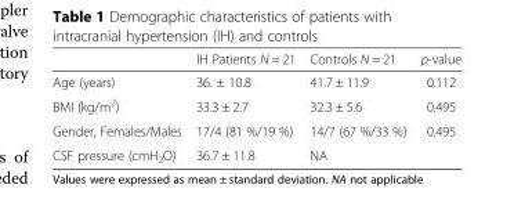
<table><thead><tr><td></td><td>IH Patients N = 21</td><td>Controls N = 21</td><td>p-value</td></tr></thead><tbody><tr><td>Age (years)</td><td>36. ± 10.8</td><td>41.7 ± 11.9</td><td>0.112</td></tr><tr><td>BMI (kg/m<sup>2</sup>)</td><td>33.3 ± 2.7</td><td>32.3 ± 5.6</td><td>0.495</td></tr><tr><td>Gender, Females/Males</td><td>17/4 (81 %/19 %)</td><td>14/7 (67 %/33 %)</td><td>0.495</td></tr><tr><td>CSF pressure (cmH<sub>2</sub>O)</td><td>36.7 ± 11.8</td><td>NA</td><td></td></tr></tbody></table>